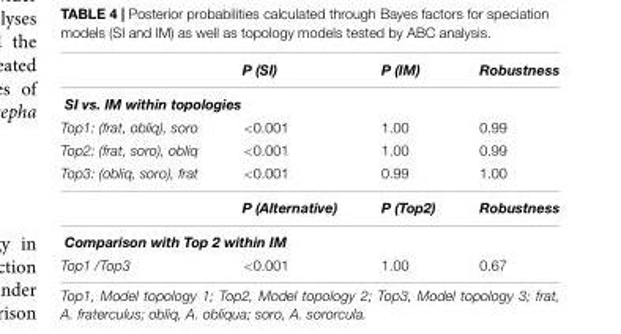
<table><thead><tr><td></td><td>P (SI)</td><td>P (IM)</td><td>Robustness</td></tr></thead><tbody><tr><td colspan="4">SI vs. IM within topologies</td></tr><tr><td>Top1: (frat, obliq), soro</td><td>&lt;0.001</td><td>1.00</td><td>0.99</td></tr><tr><td>Top2: (frat, soro), obliq</td><td>&lt;0.001</td><td>1.00</td><td>0.99</td></tr><tr><td rowspan="2">Top3: (obliq, soro), frat</td><td>&lt;0.001</td><td>0.99</td><td>1.00</td></tr><tr><td>P (Alternative)</td><td>P (Top2)</td><td>Robustness</td></tr><tr><td colspan="4">Comparison with Top 2 within IM</td></tr><tr><td>Top1 /Top3</td><td>&lt;0.001</td><td>1.00</td><td>0.67</td></tr></tbody></table>